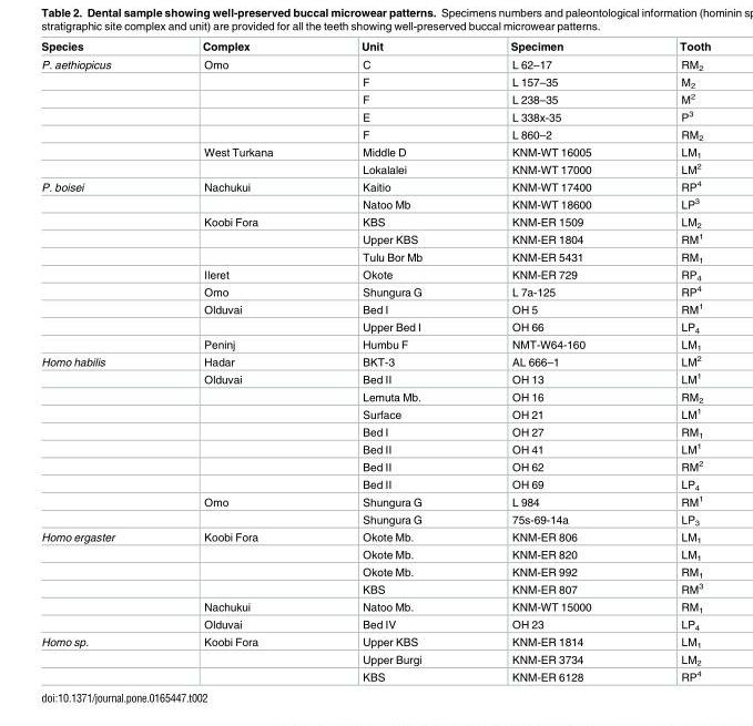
<table><thead><tr><td>Species</td><td>Complex</td><td>Unit</td><td>Specimen</td><td>Tooth</td></tr></thead><tbody><tr><td rowspan="7">P. aethiopicus</td><td>Omo</td><td>C</td><td>L 62–17</td><td>RM<sub>2</sub></td></tr><tr><td></td><td>F</td><td>L 157–35</td><td>M<sub>2</sub></td></tr><tr><td></td><td>F</td><td>L 238–35</td><td>M<sup>2</sup></td></tr><tr><td></td><td>E</td><td>L 338x-35</td><td>P<sup>3</sup></td></tr><tr><td></td><td>F</td><td>L 860–2</td><td>RM<sub>2</sub></td></tr><tr><td>West Turkana</td><td>Middle D</td><td>KNM-WT 16005</td><td>LM<sub>1</sub></td></tr><tr><td></td><td>Lokalalei</td><td>KNM-WT 17000</td><td>LM<sup>2</sup></td></tr><tr><td rowspan="10">P. boisei</td><td>Nachukui</td><td>Kaitio</td><td>KNM-WT 17400</td><td>RP<sup>4</sup></td></tr><tr><td></td><td>Natoo Mb</td><td>KNM-WT 18600</td><td>LP<sup>3</sup></td></tr><tr><td>Koobi Fora</td><td>KBS</td><td>KNM-ER 1509</td><td>LM<sub>2</sub></td></tr><tr><td></td><td>Upper KBS</td><td>KNM-ER 1804</td><td>RM<sup>1</sup></td></tr><tr><td></td><td>Tulu Bor Mb</td><td>KNM-ER 5431</td><td>RM<sub>1</sub></td></tr><tr><td>Ileret</td><td>Okote</td><td>KNM-ER 729</td><td>RP<sub>4</sub></td></tr><tr><td>Omo</td><td>Shungura G</td><td>L 7a-125</td><td>RP<sup>4</sup></td></tr><tr><td>Olduvai</td><td>Bed I</td><td>OH 5</td><td>RM<sup>1</sup></td></tr><tr><td></td><td>Upper Bed I</td><td>OH 66</td><td>LP<sub>4</sub></td></tr><tr><td>Peninj</td><td>Humbu F</td><td>NMT-W64-160</td><td>LM<sub>1</sub></td></tr><tr><td rowspan="10">Homo habilis</td><td>Hadar</td><td>BKT-3</td><td>AL 666–1</td><td>LM<sup>2</sup></td></tr><tr><td>Olduvai</td><td>Bed II</td><td>OH 13</td><td>LM<sup>1</sup></td></tr><tr><td></td><td>Lemuta Mb.</td><td>OH 16</td><td>RM<sub>2</sub></td></tr><tr><td></td><td>Surface</td><td>OH 21</td><td>LM<sup>1</sup></td></tr><tr><td></td><td>Bed I</td><td>OH 27</td><td>RM<sub>1</sub></td></tr><tr><td></td><td>Bed II</td><td>OH 41</td><td>LM<sup>1</sup></td></tr><tr><td></td><td>Bed II</td><td>OH 62</td><td>RM<sup>2</sup></td></tr><tr><td></td><td>Bed II</td><td>OH 69</td><td>LP<sub>4</sub></td></tr><tr><td>Omo</td><td>Shungura G</td><td>L 984</td><td>RM<sup>1</sup></td></tr><tr><td></td><td>Shungura G</td><td>75s-69-14a</td><td>LP<sub>3</sub></td></tr><tr><td rowspan="6">Homo ergaster</td><td>Koobi Fora</td><td>Okote Mb.</td><td>KNM-ER 806</td><td>LM<sub>1</sub></td></tr><tr><td></td><td>Okote Mb.</td><td>KNM-ER 820</td><td>LM<sub>1</sub></td></tr><tr><td></td><td>Okote Mb.</td><td>KNM-ER 992</td><td>RM<sub>1</sub></td></tr><tr><td></td><td>KBS</td><td>KNM-ER 807</td><td>RM<sup>3</sup></td></tr><tr><td>Nachukui</td><td>Natoo Mb.</td><td>KNM-WT 15000</td><td>RM<sub>1</sub></td></tr><tr><td>Olduvai</td><td>Bed IV</td><td>OH 23</td><td>LP<sub>4</sub></td></tr><tr><td rowspan="3">Homo sp.</td><td>Koobi Fora</td><td>Upper KBS</td><td>KNM-ER 1814</td><td>LM<sub>1</sub></td></tr><tr><td></td><td>Upper Burgi</td><td>KNM-ER 3734</td><td>LM<sub>2</sub></td></tr><tr><td></td><td>KBS</td><td>KNM-ER 6128</td><td>RP<sup>4</sup></td></tr></tbody></table>